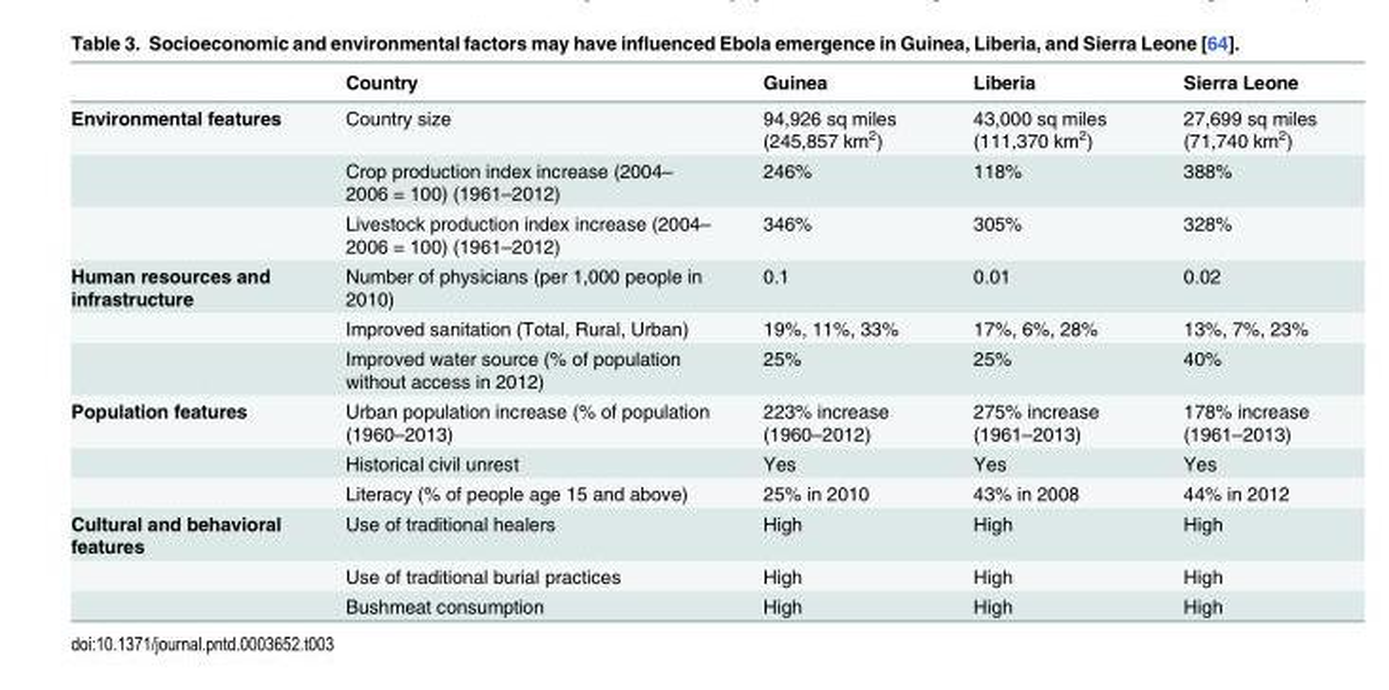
<table><thead><tr><td></td><td>Country</td><td>Guinea</td><td>Liberia</td><td>Sierra Leone</td></tr></thead><tbody><tr><td rowspan="3">Environmental features</td><td>Country size</td><td>94,926 sq miles (245,857 km<sup>2</sup>)</td><td>43,000 sq miles (111,370 km<sup>2</sup>)</td><td>27,699 sq miles (71,740 km<sup>2</sup>)</td></tr><tr><td>Crop production index increase (2004– 2006 = 100) (1961–2012)</td><td>246%</td><td>118%</td><td>388%</td></tr><tr><td>Livestock production index increase (2004– 2006 = 100) (1961–2012)</td><td>346%</td><td>305%</td><td>328%</td></tr><tr><td rowspan="3">Human resources and infrastructure</td><td>Number of physicians (per 1,000 people in 2010)</td><td>0.1</td><td>0.01</td><td>0.02</td></tr><tr><td>Improved sanitation (Total, Rural, Urban)</td><td>19%, 11%, 33%</td><td>17%, 6%, 28%</td><td>13%, 7%, 23%</td></tr><tr><td>Improved water source (% of population without access in 2012)</td><td>25%</td><td>25%</td><td>40%</td></tr><tr><td rowspan="3">Population features</td><td>Urban population increase (% of population (1960–2013)</td><td>223% increase (1960–2012)</td><td>275% increase (1961–2013)</td><td>178% increase (1961–2013)</td></tr><tr><td>Historical civil unrest</td><td>Yes</td><td>Yes</td><td>Yes</td></tr><tr><td>Literacy (% of people age 15 and above)</td><td>25% in 2010</td><td>43% in 2008</td><td>44% in 2012</td></tr><tr><td rowspan="3">Cultural and behavioral features</td><td>Use of traditional healers</td><td>High</td><td>High</td><td>High</td></tr><tr><td>Use of traditional burial practices</td><td>High</td><td>High</td><td>High</td></tr><tr><td>Bushmeat consumption</td><td>High</td><td>High</td><td>High</td></tr></tbody></table>